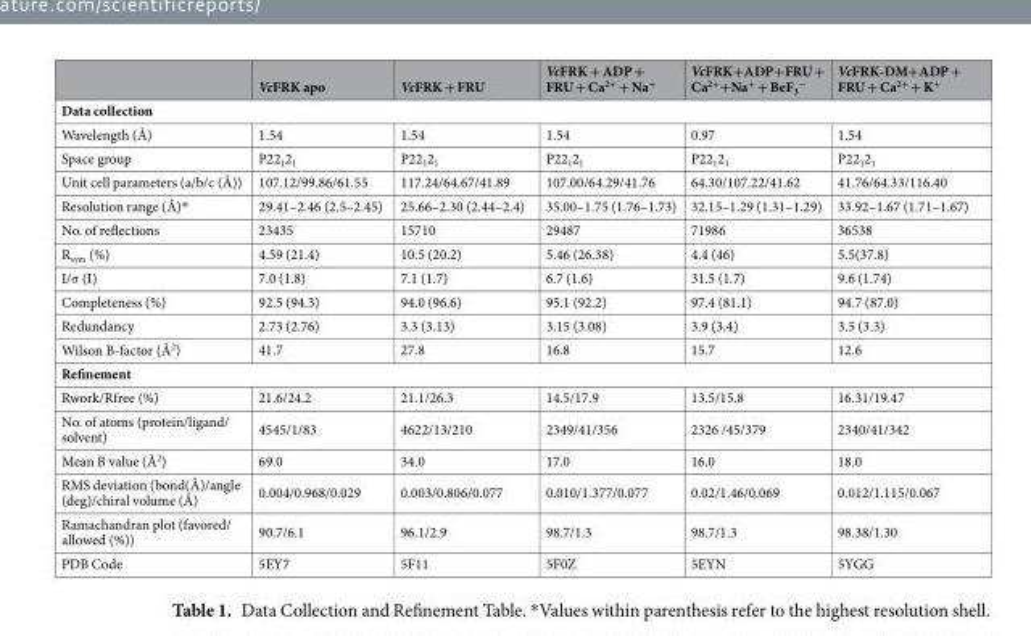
<table><thead><tr><td></td><td>VcFRK apo</td><td>VcFRK + FRU</td><td>VcFRK + ADP + FRU + Ca<sup>2+</sup> + Na<sup>+</sup></td><td>VcFRK+ADP+FRU + Ca<sup>2+</sup>+Na<sup>+</sup> + BeF<sub>3</sub> <sup>−</sup></td><td>VcFRK-DM+ADP + FRU + Ca<sup>2+</sup> + K<sup>+</sup></td></tr></thead><tbody><tr><td colspan="6">Data collection</td></tr><tr><td>Wavelength (Å)</td><td>1.54</td><td>1.54</td><td>1.54</td><td>0.97</td><td>1.54</td></tr><tr><td>Space group</td><td>P22<sub>1</sub>2<sub>1</sub></td><td>P22<sub>1</sub>2<sub>1</sub></td><td>P22<sub>1</sub>2<sub>1</sub></td><td>P22<sub>1</sub>2<sub>1</sub></td><td>P22<sub>1</sub>2<sub>1</sub></td></tr><tr><td>Unit cell parameters (a/b/c (Å))</td><td>107.12/99.86/61.55</td><td>117.24/64.67/41.89</td><td>107.00/64.29/41.76</td><td>64.30/107.22/41.62</td><td>41.76/64.33/116.40</td></tr><tr><td>Resolution range (Å)*</td><td>29.41–2.46 (2.5–2.45)</td><td>25.66–2.30 (2.44–2.4)</td><td>35.00–1.75 (1.76–1.73)</td><td>32.15–1.29 (1.31–1.29)</td><td>33.92–1.67 (1.71–1.67)</td></tr><tr><td>No. of reflections</td><td>23435</td><td>15710</td><td>29487</td><td>71986</td><td>36538</td></tr><tr><td>R<sub>sym</sub> (%)</td><td>4.59 (21.4)</td><td>10.5 (20.2)</td><td>5.46 (26.38)</td><td>4.4 (46)</td><td>5.5(37.8)</td></tr><tr><td>I/σ (I)</td><td>7.0 (1.8)</td><td>7.1 (1.7)</td><td>6.7 (1.6)</td><td>31.5 (1.7)</td><td>9.6 (1.74)</td></tr><tr><td>Completeness (%)</td><td>92.5 (94.3)</td><td>94.0 (96.6)</td><td>95.1 (92.2)</td><td>97.4 (81.1)</td><td>94.7 (87.0)</td></tr><tr><td>Redundancy</td><td>2.73 (2.76)</td><td>3.3 (3.13)</td><td>3.15 (3.08)</td><td>3.9 (3.4)</td><td>3.5 (3.3)</td></tr><tr><td>Wilson B-factor (Å<sup>2</sup>)</td><td>41.7</td><td>27.8</td><td>16.8</td><td>15.7</td><td>12.6</td></tr><tr><td colspan="6">Refinement</td></tr><tr><td>Rwork/Rfree (%)</td><td>21.6/24.2</td><td>21.1/26.3</td><td>14.5/17.9</td><td>13.5/15.8</td><td>16.31/19.47</td></tr><tr><td>No. of atoms (protein/ligand/ solvent)</td><td>4545/1/83</td><td>4622/13/210</td><td>2349/41/356</td><td>2326 /45/379</td><td>2340/41/342</td></tr><tr><td>Mean B value (Å<sup>2</sup>)</td><td>69.0</td><td>34.0</td><td>17.0</td><td>16.0</td><td>18.0</td></tr><tr><td>RMS deviation (bond(Å)/angle (deg)/chiral volume (Å)</td><td>0.004/0.968/0.029</td><td>0.003/0.806/0.077</td><td>0.010/1.377/0.077</td><td>0.02/1.46/0.069</td><td>0.012/1.115/0.067</td></tr><tr><td>Ramachandran plot (favored/ allowed (%))</td><td>90.7/6.1</td><td>96.1/2.9</td><td>98.7/1.3</td><td>98.7/1.3</td><td>98.38/1.30</td></tr><tr><td>PDB Code</td><td>5EY7</td><td>5F11</td><td>5F0Z</td><td>5EYN</td><td>5YGG</td></tr></tbody></table>